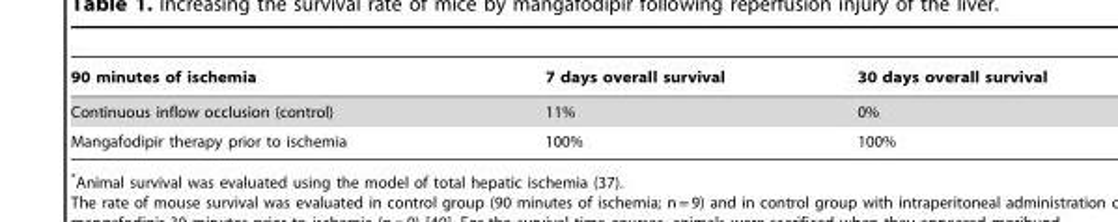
<table><thead><tr><td>90 minutes of ischemia</td><td>7 days overall survival</td><td>30 days overall survival</td></tr></thead><tbody><tr><td>Continuous inflow occlusion (control)</td><td>11%</td><td>0%</td></tr><tr><td>Mangafodipir therapy prior to ischemia</td><td>100%</td><td>100%</td></tr></tbody></table>